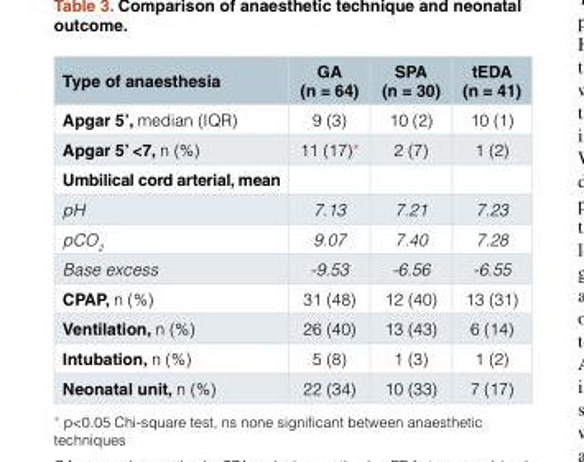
<table><thead><tr><td>Type of anaesthesia</td><td>GA (n = 64)</td><td>SPA (n = 30)</td><td>tEDA (n = 41)</td></tr></thead><tbody><tr><td>Apgar 5’, median (IQR)</td><td>9 (3)</td><td>10 (2)</td><td>10 (1)</td></tr><tr><td>Apgar 5’ &lt;7, n (%)</td><td>11 (17)*</td><td>2 (7)</td><td>1 (2)</td></tr><tr><td colspan="4">Umbilical cord arterial, mean</td></tr><tr><td>pH</td><td>7.13</td><td>7.21</td><td>7.23</td></tr><tr><td>pCO<sub>2</sub></td><td>9.07</td><td>7.40</td><td>7.28</td></tr><tr><td>Base excess</td><td>-9.53</td><td>-6.56</td><td>-6.55</td></tr><tr><td>CPAP, n (%)</td><td>31 (48)</td><td>12 (40)</td><td>13 (31)</td></tr><tr><td>Ventilation, n (%)</td><td>26 (40)</td><td>13 (43)</td><td>6 (14)</td></tr><tr><td>Intubation, n (%)</td><td>5 (8)</td><td>1 (3)</td><td>1 (2)</td></tr><tr><td>Neonatal unit, n (%)</td><td>22 (34)</td><td>10 (33)</td><td>7 (17)</td></tr></tbody></table>